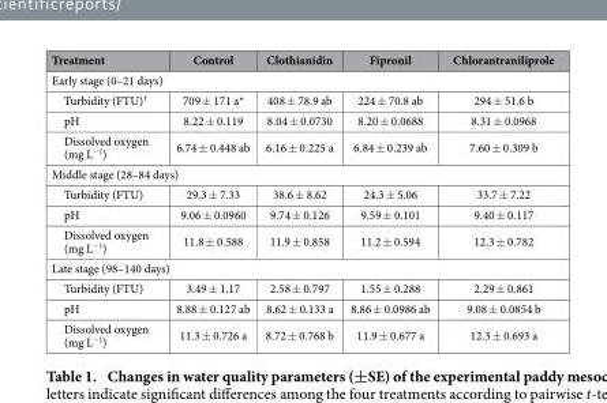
<table><thead><tr><td>Treatment</td><td>Control</td><td>Clothianidin</td><td>Fipronil</td><td>Chlorantraniliprole</td></tr></thead><tbody><tr><td colspan="5">Early stage (0–21 days)</td></tr><tr><td>Turbidity (FTU)†</td><td>709 ± 171 a*</td><td>408 ± 78.9 ab</td><td>224 ± 70.8 ab</td><td>294 ± 51.6 b</td></tr><tr><td>pH</td><td>8.22 ± 0.119</td><td>8.04 ± 0.0730</td><td>8.20 ± 0.0688</td><td>8.31 ± 0.0968</td></tr><tr><td>Dissolved oxygen (mg L<sup>−1</sup>)</td><td>6.74 ± 0.448 ab</td><td>6.16 ± 0.225 a</td><td>6.84 ± 0.239 ab</td><td>7.60 ± 0.309 b</td></tr><tr><td colspan="5">Middle stage (28–84 days)</td></tr><tr><td>Turbidity (FTU)</td><td>29.3 ± 7.33</td><td>38.6 ± 8.62</td><td>24.3 ± 5.06</td><td>33.7 ± 7.22</td></tr><tr><td>pH</td><td>9.06 ± 0.0960</td><td>9.74 ± 0.126</td><td>9.59 ± 0.101</td><td>9.40 ± 0.117</td></tr><tr><td>Dissolved oxygen (mg L<sup>−1</sup>)</td><td>11.8 ± 0.588</td><td>11.9 ± 0.858</td><td>11.2 ± 0.594</td><td>12.3 ± 0.782</td></tr><tr><td colspan="5">Late stage (98–140 days)</td></tr><tr><td>Turbidity (FTU)</td><td>3.49 ± 1.17</td><td>2.58 ± 0.797</td><td>1.55 ± 0.288</td><td>2.29 ± 0.861</td></tr><tr><td>pH</td><td>8.88 ± 0.127 ab</td><td>8.62 ± 0.133 a</td><td>8.86 ± 0.0986 ab</td><td>9.08 ± 0.0854 b</td></tr><tr><td>Dissolved oxygen (mg L<sup>−1</sup>)</td><td>11.3 ± 0.726 a</td><td>8.72 ± 0.768 b</td><td>11.9 ± 0.677 a</td><td>12.3 ± 0.693 a</td></tr></tbody></table>